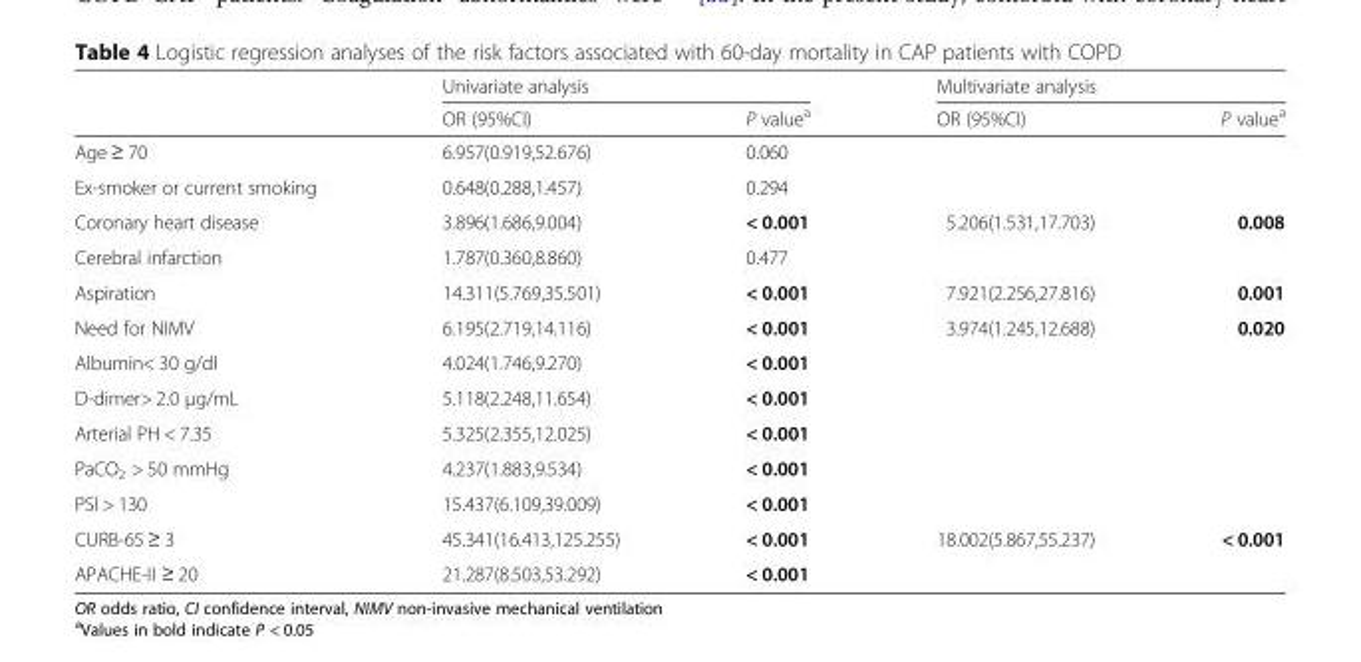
<table><thead><tr><td rowspan="2"></td><td colspan="2">Univariate analysis</td><td colspan="2">Multivariate analysis</td></tr><tr><td>OR (95%CI)</td><td>P value<sup>a</sup></td><td>OR (95%CI)</td><td>P value<sup>a</sup></td></tr></thead><tbody><tr><td>Age ≥ 70</td><td>6.957(0.919,52.676)</td><td>0.060</td><td></td><td></td></tr><tr><td>Ex-smoker or current smoking</td><td>0.648(0.288,1.457)</td><td>0.294</td><td></td><td></td></tr><tr><td>Coronary heart disease</td><td>3.896(1.686,9.004)</td><td>&lt; 0.001</td><td>5.206(1.531,17.703)</td><td>0.008</td></tr><tr><td>Cerebral infarction</td><td>1.787(0.360,8.860)</td><td>0.477</td><td></td><td></td></tr><tr><td>Aspiration</td><td>14.311(5.769,35.501)</td><td>&lt; 0.001</td><td>7.921(2.256,27.816)</td><td>0.001</td></tr><tr><td>Need for NIMV</td><td>6.195(2.719,14.116)</td><td>&lt; 0.001</td><td>3.974(1.245,12.688)</td><td>0.020</td></tr><tr><td>Albumin&lt; 30 g/dl</td><td>4.024(1.746,9.270)</td><td>&lt; 0.001</td><td></td><td></td></tr><tr><td>D-dimer&gt; 2.0 μg/mL</td><td>5.118(2.248,11.654)</td><td>&lt; 0.001</td><td></td><td></td></tr><tr><td>Arterial PH &lt; 7.35</td><td>5.325(2.355,12.025)</td><td>&lt; 0.001</td><td></td><td></td></tr><tr><td>PaCO<sub>2</sub> &gt; 50 mmHg</td><td>4.237(1.883,9.534)</td><td>&lt; 0.001</td><td></td><td></td></tr><tr><td>PSI &gt; 130</td><td>15.437(6.109,39.009)</td><td>&lt; 0.001</td><td></td><td></td></tr><tr><td>CURB-65 ≥ 3</td><td>45.341(16.413,125.255)</td><td>&lt; 0.001</td><td>18.002(5.867,55.237)</td><td>&lt; 0.001</td></tr><tr><td>APACHE-II ≥ 20</td><td>21.287(8.503,53.292)</td><td>&lt; 0.001</td><td></td><td></td></tr></tbody></table>